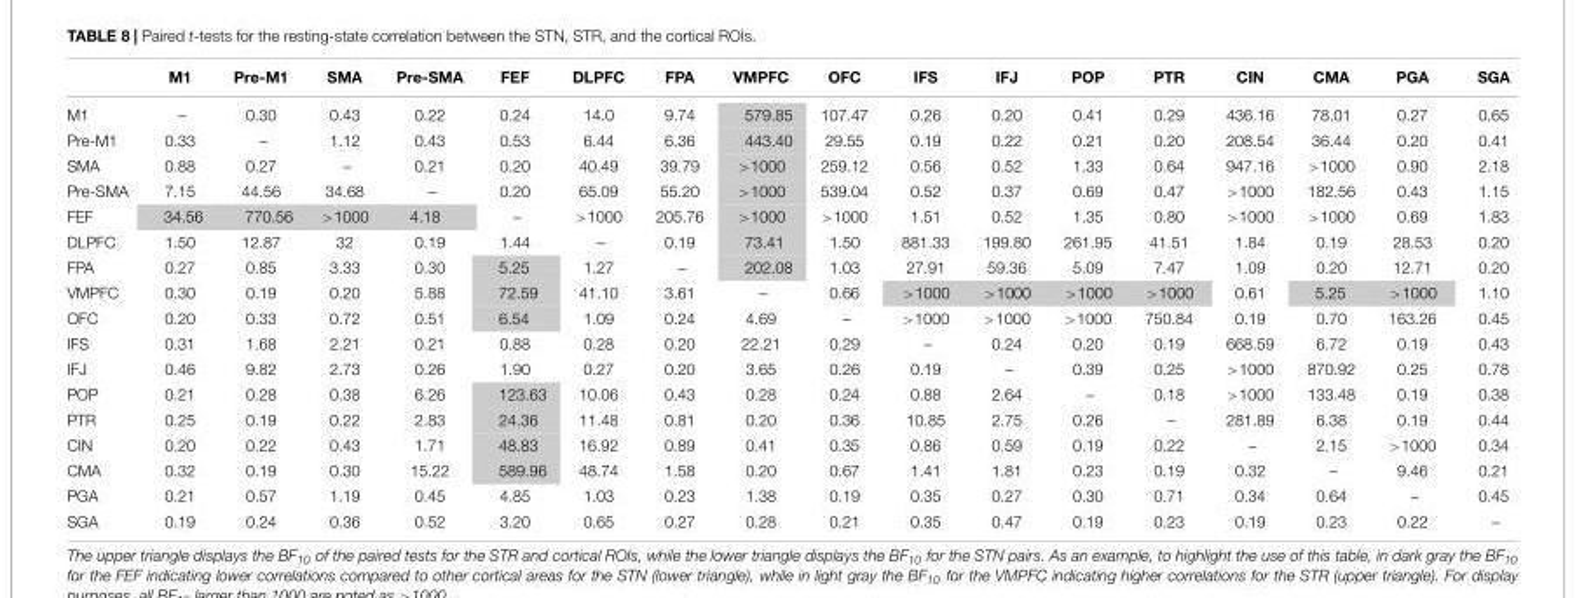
<table><thead><tr><td></td><td>M1</td><td>Pre-M1</td><td>SMA</td><td>Pre-SMA</td><td>FEF</td><td>DLPFC</td><td>FPA</td><td>VMPFC</td><td>OFC</td><td>IFS</td><td>IFJ</td><td>POP</td><td>PTR</td><td>CIN</td><td>CMA</td><td>PGA</td><td>SGA</td></tr></thead><tbody><tr><td>M1</td><td>–</td><td>0.30</td><td>0.43</td><td>0.22</td><td>0.24</td><td>14.0</td><td>9.74</td><td>579.85</td><td>107.47</td><td>0.26</td><td>0.20</td><td>0.41</td><td>0.29</td><td>436.16</td><td>78.01</td><td>0.27</td><td>0.65</td></tr><tr><td>Pre-M1</td><td>0.33</td><td>–</td><td>1.12</td><td>0.43</td><td>0.53</td><td>6.44</td><td>6.36</td><td>443.40</td><td>29.55</td><td>0.19</td><td>0.22</td><td>0.21</td><td>0.20</td><td>208.54</td><td>36.44</td><td>0.20</td><td>0.41</td></tr><tr><td>SMA</td><td>0.88</td><td>0.27</td><td>–</td><td>0.21</td><td>0.20</td><td>40.49</td><td>39.79</td><td>&gt;1000</td><td>259.12</td><td>0.56</td><td>0.52</td><td>1.33</td><td>0.64</td><td>947.16</td><td>&gt;1000</td><td>0.90</td><td>2.18</td></tr><tr><td>Pre-SMA</td><td>7.15</td><td>44.56</td><td>34.68</td><td>–</td><td>0.20</td><td>65.09</td><td>55.20</td><td>&gt;1000</td><td>539.04</td><td>0.52</td><td>0.37</td><td>0.69</td><td>0.47</td><td>&gt;1000</td><td>182.56</td><td>0.43</td><td>1.15</td></tr><tr><td>FEF</td><td>34.56</td><td>770.56</td><td>&gt;1000</td><td>4.18</td><td>–</td><td>&gt;1000</td><td>205.76</td><td>&gt;1000</td><td>&gt;1000</td><td>1.51</td><td>0.52</td><td>1.35</td><td>0.80</td><td>&gt;1000</td><td>&gt;1000</td><td>0.69</td><td>1.83</td></tr><tr><td>DLPFC</td><td>1.50</td><td>12.87</td><td>32</td><td>0.19</td><td>1.44</td><td>–</td><td>0.19</td><td>73.41</td><td>1.50</td><td>881.33</td><td>199.80</td><td>261.95</td><td>41.51</td><td>1.84</td><td>0.19</td><td>28.53</td><td>0.20</td></tr><tr><td>FPA</td><td>0.27</td><td>0.85</td><td>3.33</td><td>0.30</td><td>5.25</td><td>1.27</td><td>–</td><td>202.08</td><td>1.03</td><td>27.91</td><td>59.36</td><td>5.09</td><td>7.47</td><td>1.09</td><td>0.20</td><td>12.71</td><td>0.20</td></tr><tr><td>VMPFC</td><td>0.30</td><td>0.19</td><td>0.20</td><td>5.88</td><td>72.59</td><td>41.10</td><td>3.61</td><td>–</td><td>0.66</td><td>&gt;1000</td><td>&gt;1000</td><td>&gt;1000</td><td>&gt;1000</td><td>0.61</td><td>5.25</td><td>&gt;1000</td><td>1.10</td></tr><tr><td>OFC</td><td>0.20</td><td>0.33</td><td>0.72</td><td>0.51</td><td>6.54</td><td>1.09</td><td>0.24</td><td>4.69</td><td>–</td><td>&gt;1000</td><td>&gt;1000</td><td>&gt;1000</td><td>750.84</td><td>0.19</td><td>0.70</td><td>163.26</td><td>0.45</td></tr><tr><td>IFS</td><td>0.31</td><td>1.68</td><td>2.21</td><td>0.21</td><td>0.88</td><td>0.28</td><td>0.20</td><td>22.21</td><td>0.29</td><td>–</td><td>0.24</td><td>0.20</td><td>0.19</td><td>668.59</td><td>6.72</td><td>0.19</td><td>0.43</td></tr><tr><td>IFJ</td><td>0.46</td><td>9.82</td><td>2.73</td><td>0.26</td><td>1.90</td><td>0.27</td><td>0.20</td><td>3.65</td><td>0.26</td><td>0.19</td><td>–</td><td>0.39</td><td>0.25</td><td>&gt;1000</td><td>870.92</td><td>0.25</td><td>0.78</td></tr><tr><td>POP</td><td>0.21</td><td>0.28</td><td>0.38</td><td>6.26</td><td>123.63</td><td>10.06</td><td>0.43</td><td>0.28</td><td>0.24</td><td>0.88</td><td>2.64</td><td>–</td><td>0.18</td><td>&gt;1000</td><td>133.48</td><td>0.19</td><td>0.38</td></tr><tr><td>PTR</td><td>0.25</td><td>0.19</td><td>0.22</td><td>2.83</td><td>24.36</td><td>11.48</td><td>0.81</td><td>0.20</td><td>0.36</td><td>10.85</td><td>2.75</td><td>0.26</td><td>–</td><td>281.89</td><td>6.38</td><td>0.19</td><td>0.44</td></tr><tr><td>CIN</td><td>0.20</td><td>0.22</td><td>0.43</td><td>1.71</td><td>48.83</td><td>16.92</td><td>0.89</td><td>0.41</td><td>0.35</td><td>0.86</td><td>0.59</td><td>0.19</td><td>0.22</td><td>–</td><td>2.15</td><td>&gt;1000</td><td>0.34</td></tr><tr><td>CMA</td><td>0.32</td><td>0.19</td><td>0.30</td><td>15.22</td><td>589.96</td><td>48.74</td><td>1.58</td><td>0.20</td><td>0.67</td><td>1.41</td><td>1.81</td><td>0.23</td><td>0.19</td><td>0.32</td><td>–</td><td>9.46</td><td>0.21</td></tr><tr><td>PGA</td><td>0.21</td><td>0.57</td><td>1.19</td><td>0.45</td><td>4.85</td><td>1.03</td><td>0.23</td><td>1.38</td><td>0.19</td><td>0.35</td><td>0.27</td><td>0.30</td><td>0.71</td><td>0.34</td><td>0.64</td><td>–</td><td>0.45</td></tr><tr><td>SGA</td><td>0.19</td><td>0.24</td><td>0.36</td><td>0.52</td><td>3.20</td><td>0.65</td><td>0.27</td><td>0.28</td><td>0.21</td><td>0.35</td><td>0.47</td><td>0.19</td><td>0.23</td><td>0.19</td><td>0.23</td><td>0.22</td><td>–</td></tr></tbody></table>